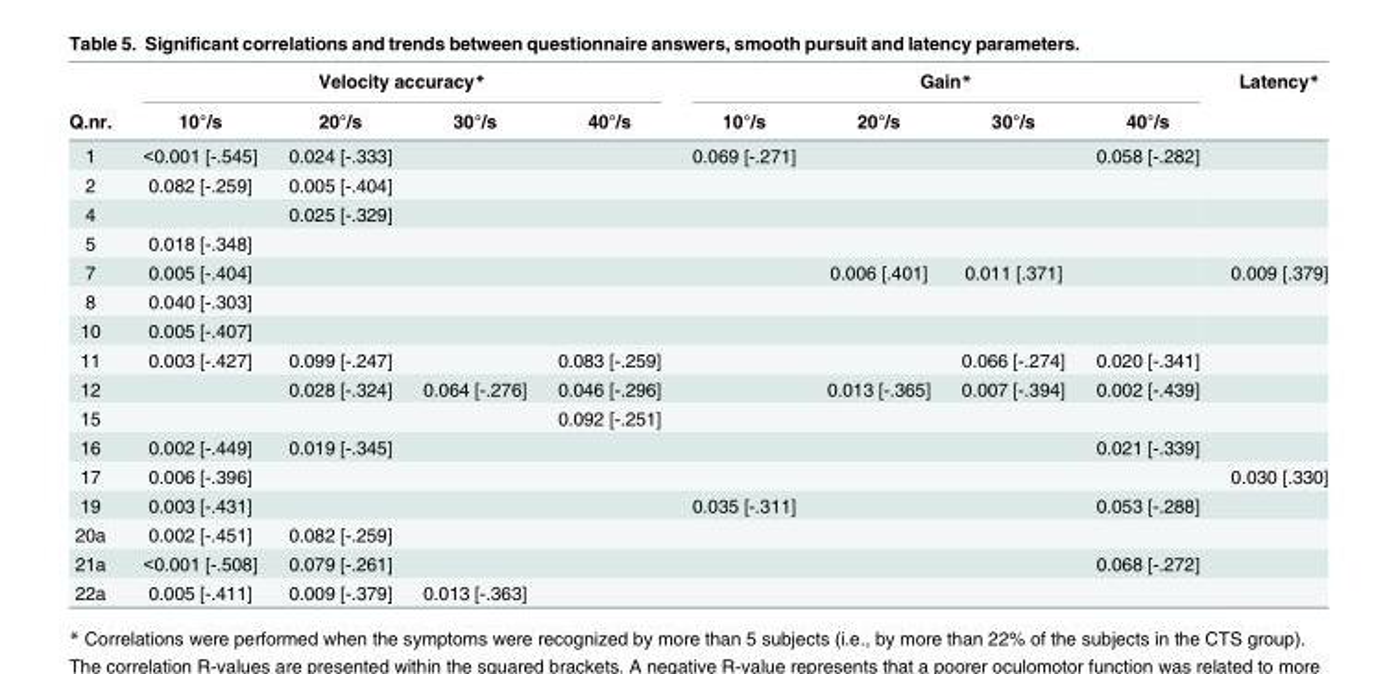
<table><thead><tr><td rowspan="2">Q.nr.</td><td colspan="4">Velocity accuracy*</td><td colspan="4">Gain*</td><td rowspan="2">Latency*</td></tr><tr><td>10°/s</td><td>20°/s</td><td>30°/s</td><td>40°/s</td><td>10°/s</td><td>20°/s</td><td>30°/s</td><td>40°/s</td></tr></thead><tbody><tr><td>1</td><td>&lt;0.001 [-.545]</td><td>0.024 [-.333]</td><td></td><td></td><td>0.069 [-.271]</td><td></td><td></td><td>0.058 [-.282]</td><td></td></tr><tr><td>2</td><td>0.082 [-.259]</td><td>0.005 [-.404]</td><td></td><td></td><td></td><td></td><td></td><td></td><td></td></tr><tr><td>4</td><td></td><td>0.025 [-.329]</td><td></td><td></td><td></td><td></td><td></td><td></td><td></td></tr><tr><td>5</td><td>0.018 [-.348]</td><td></td><td></td><td></td><td></td><td></td><td></td><td></td><td></td></tr><tr><td>7</td><td>0.005 [-.404]</td><td></td><td></td><td></td><td></td><td>0.006 [.401]</td><td>0.011 [.371]</td><td></td><td>0.009 [.379]</td></tr><tr><td>8</td><td>0.040 [-.303]</td><td></td><td></td><td></td><td></td><td></td><td></td><td></td><td></td></tr><tr><td>10</td><td>0.005 [-.407]</td><td></td><td></td><td></td><td></td><td></td><td></td><td></td><td></td></tr><tr><td>11</td><td>0.003 [-.427]</td><td>0.099 [-.247]</td><td></td><td>0.083 [-.259]</td><td></td><td></td><td>0.066 [-.274]</td><td>0.020 [-.341]</td><td></td></tr><tr><td>12</td><td></td><td>0.028 [-.324]</td><td>0.064 [-.276]</td><td>0.046 [-.296]</td><td></td><td>0.013 [-.365]</td><td>0.007 [-.394]</td><td>0.002 [-.439]</td><td></td></tr><tr><td>15</td><td></td><td></td><td></td><td>0.092 [-.251]</td><td></td><td></td><td></td><td></td><td></td></tr><tr><td>16</td><td>0.002 [-.449]</td><td>0.019 [-.345]</td><td></td><td></td><td></td><td></td><td></td><td>0.021 [-.339]</td><td></td></tr><tr><td>17</td><td>0.006 [-.396]</td><td></td><td></td><td></td><td></td><td></td><td></td><td></td><td>0.030 [.330]</td></tr><tr><td>19</td><td>0.003 [-.431]</td><td></td><td></td><td></td><td>0.035 [-.311]</td><td></td><td></td><td>0.053 [-.288]</td><td></td></tr><tr><td>20a</td><td>0.002 [-.451]</td><td>0.082 [-.259]</td><td></td><td></td><td></td><td></td><td></td><td></td><td></td></tr><tr><td>21a</td><td>&lt;0.001 [-.508]</td><td>0.079 [-.261]</td><td></td><td></td><td></td><td></td><td></td><td>0.068 [-.272]</td><td></td></tr><tr><td>22a</td><td>0.005 [-.411]</td><td>0.009 [-.379]</td><td>0.013 [-.363]</td><td></td><td></td><td></td><td></td><td></td><td></td></tr></tbody></table>